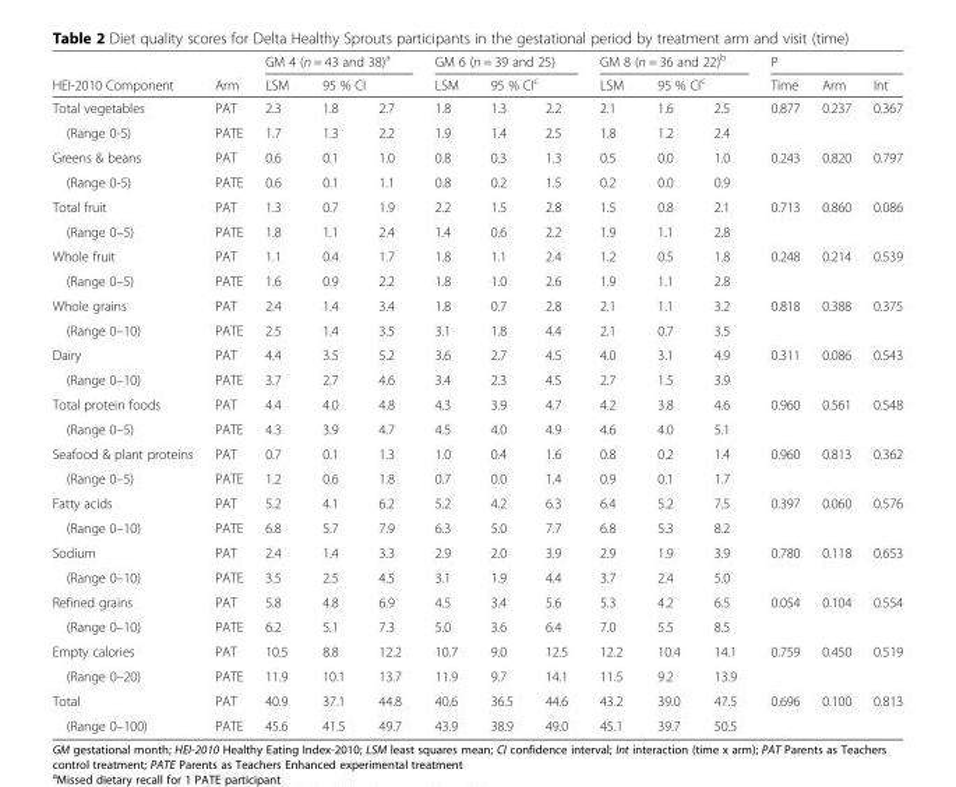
<table><thead><tr><td rowspan="3">HEI-2010 Component Total vegetables</td><td rowspan="3">Arm PAT</td><td colspan="3">GM 4 (n = 43 and 38)<sup>a</sup></td><td colspan="3">GM 6 (n = 39 and 25)</td><td colspan="3">GM 8 (n = 36 and 22)<sup>b</sup></td><td colspan="3">P</td></tr><tr><td rowspan="2">LSM 2.3</td><td colspan="2">95 % CI</td><td rowspan="2">LSM 1.8</td><td colspan="2">95 % CI<sup>c</sup></td><td rowspan="2">LSM 2.1</td><td colspan="2">95 % CI<sup>c</sup></td><td rowspan="2">Time 0.877</td><td rowspan="2">Arm 0.237</td><td rowspan="2">Int 0.367</td></tr><tr><td>1.8</td><td>2.7</td><td>1.3</td><td>2.2</td><td>1.6</td><td>2.5</td></tr></thead><tbody><tr><td>(Range 0-5)</td><td>PATE</td><td>1.7</td><td>1.3</td><td>2.2</td><td>1.9</td><td>1.4</td><td>2.5</td><td>1.8</td><td>1.2</td><td>2.4</td><td></td><td></td><td></td></tr><tr><td>Greens &amp; beans</td><td>PAT</td><td>0.6</td><td>0.1</td><td>1.0</td><td>0.8</td><td>0.3</td><td>1.3</td><td>0.5</td><td>0.0</td><td>1.0</td><td>0.243</td><td>0.820</td><td>0.797</td></tr><tr><td>(Range 0-5)</td><td>PATE</td><td>0.6</td><td>0.1</td><td>1.1</td><td>0.8</td><td>0.2</td><td>1.5</td><td>0.2</td><td>0.0</td><td>0.9</td><td></td><td></td><td></td></tr><tr><td>Total fruit</td><td>PAT</td><td>1.3</td><td>0.7</td><td>1.9</td><td>2.2</td><td>1.5</td><td>2.8</td><td>1.5</td><td>0.8</td><td>2.1</td><td>0.713</td><td>0.860</td><td>0.086</td></tr><tr><td>(Range 0–5)</td><td>PATE</td><td>1.8</td><td>1.1</td><td>2.4</td><td>1.4</td><td>0.6</td><td>2.2</td><td>1.9</td><td>1.1</td><td>2.8</td><td></td><td></td><td></td></tr><tr><td>Whole fruit</td><td>PAT</td><td>1.1</td><td>0.4</td><td>1.7</td><td>1.8</td><td>1.1</td><td>2.4</td><td>1.2</td><td>0.5</td><td>1.8</td><td>0.248</td><td>0.214</td><td>0.539</td></tr><tr><td>(Range 0–5)</td><td>PATE</td><td>1.6</td><td>0.9</td><td>2.2</td><td>1.8</td><td>1.0</td><td>2.6</td><td>1.9</td><td>1.1</td><td>2.8</td><td></td><td></td><td></td></tr><tr><td>Whole grains</td><td>PAT</td><td>2.4</td><td>1.4</td><td>3.4</td><td>1.8</td><td>0.7</td><td>2.8</td><td>2.1</td><td>1.1</td><td>3.2</td><td>0.818</td><td>0.388</td><td>0.375</td></tr><tr><td>(Range 0–10)</td><td>PATE</td><td>2.5</td><td>1.4</td><td>3.5</td><td>3.1</td><td>1.8</td><td>4.4</td><td>2.1</td><td>0.7</td><td>3.5</td><td></td><td></td><td></td></tr><tr><td>Dairy</td><td>PAT</td><td>4.4</td><td>3.5</td><td>5.2</td><td>3.6</td><td>2.7</td><td>4.5</td><td>4.0</td><td>3.1</td><td>4.9</td><td>0.311</td><td>0.086</td><td>0.543</td></tr><tr><td>(Range 0–10)</td><td>PATE</td><td>3.7</td><td>2.7</td><td>4.6</td><td>3.4</td><td>2.3</td><td>4.5</td><td>2.7</td><td>1.5</td><td>3.9</td><td></td><td></td><td></td></tr><tr><td>Total protein foods</td><td>PAT</td><td>4.4</td><td>4.0</td><td>4.8</td><td>4.3</td><td>3.9</td><td>4.7</td><td>4.2</td><td>3.8</td><td>4.6</td><td>0.960</td><td>0.561</td><td>0.548</td></tr><tr><td>(Range 0–5)</td><td>PATE</td><td>4.3</td><td>3.9</td><td>4.7</td><td>4.5</td><td>4.0</td><td>4.9</td><td>4.6</td><td>4.0</td><td>5.1</td><td></td><td></td><td></td></tr><tr><td>Seafood &amp; plant proteins</td><td>PAT</td><td>0.7</td><td>0.1</td><td>1.3</td><td>1.0</td><td>0.4</td><td>1.6</td><td>0.8</td><td>0.2</td><td>1.4</td><td>0.960</td><td>0.813</td><td>0.362</td></tr><tr><td>(Range 0–5)</td><td>PATE</td><td>1.2</td><td>0.6</td><td>1.8</td><td>0.7</td><td>0.0</td><td>1.4</td><td>0.9</td><td>0.1</td><td>1.7</td><td></td><td></td><td></td></tr><tr><td>Fatty acids</td><td>PAT</td><td>5.2</td><td>4.1</td><td>6.2</td><td>5.2</td><td>4.2</td><td>6.3</td><td>6.4</td><td>5.2</td><td>7.5</td><td>0.397</td><td>0.060</td><td>0.576</td></tr><tr><td>(Range 0–10)</td><td>PATE</td><td>6.8</td><td>5.7</td><td>7.9</td><td>6.3</td><td>5.0</td><td>7.7</td><td>6.8</td><td>5.3</td><td>8.2</td><td></td><td></td><td></td></tr><tr><td>Sodium</td><td>PAT</td><td>2.4</td><td>1.4</td><td>3.3</td><td>2.9</td><td>2.0</td><td>3.9</td><td>2.9</td><td>1.9</td><td>3.9</td><td>0.780</td><td>0.118</td><td>0.653</td></tr><tr><td>(Range 0–10)</td><td>PATE</td><td>3.5</td><td>2.5</td><td>4.5</td><td>3.1</td><td>1.9</td><td>4.4</td><td>3.7</td><td>2.4</td><td>5.0</td><td></td><td></td><td></td></tr><tr><td>Refined grains</td><td>PAT</td><td>5.8</td><td>4.8</td><td>6.9</td><td>4.5</td><td>3.4</td><td>5.6</td><td>5.3</td><td>4.2</td><td>6.5</td><td>0.054</td><td>0.104</td><td>0.554</td></tr><tr><td>(Range 0–10)</td><td>PATE</td><td>6.2</td><td>5.1</td><td>7.3</td><td>5.0</td><td>3.6</td><td>6.4</td><td>7.0</td><td>5.5</td><td>8.5</td><td></td><td></td><td></td></tr><tr><td>Empty calories</td><td>PAT</td><td>10.5</td><td>8.8</td><td>12.2</td><td>10.7</td><td>9.0</td><td>12.5</td><td>12.2</td><td>10.4</td><td>14.1</td><td>0.759</td><td>0.450</td><td>0.519</td></tr><tr><td>(Range 0–20)</td><td>PATE</td><td>11.9</td><td>10.1</td><td>13.7</td><td>11.9</td><td>9.7</td><td>14.1</td><td>11.5</td><td>9.2</td><td>13.9</td><td></td><td></td><td></td></tr><tr><td>Total</td><td>PAT</td><td>40.9</td><td>37.1</td><td>44.8</td><td>40.6</td><td>36.5</td><td>44.6</td><td>43.2</td><td>39.0</td><td>47.5</td><td>0.696</td><td>0.100</td><td>0.813</td></tr><tr><td>(Range 0–100)</td><td>PATE</td><td>45.6</td><td>41.5</td><td>49.7</td><td>43.9</td><td>38.9</td><td>49.0</td><td>45.1</td><td>39.7</td><td>50.5</td><td></td><td></td><td></td></tr></tbody></table>